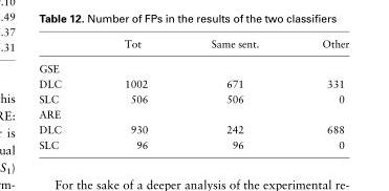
<table><thead><tr><td></td><td>Tot</td><td>Same sent.</td><td>Other</td></tr></thead><tbody><tr><td colspan="4">GSE</td></tr><tr><td>DLC</td><td>1002</td><td>671</td><td>331</td></tr><tr><td>SLC</td><td>506</td><td>506</td><td>0</td></tr><tr><td colspan="4">ARE</td></tr><tr><td>DLC</td><td>930</td><td>242</td><td>688</td></tr><tr><td>SLC</td><td>96</td><td>96</td><td>0</td></tr></tbody></table>